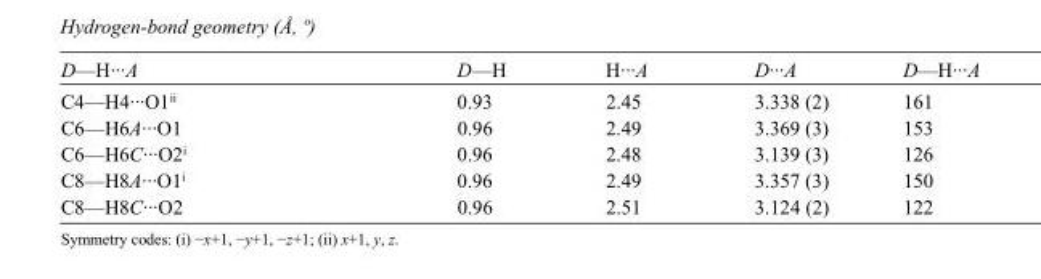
<table><tbody><tr><td>D—H···A</td><td>D—H</td><td>H···A</td><td>D···A</td><td>D—H···A</td></tr><tr><td>C4—H4···O1<sup>ii</sup></td><td>0.93</td><td>2.45</td><td>3.338 (2)</td><td>161</td></tr><tr><td>C6—H6A···O1</td><td>0.96</td><td>2.49</td><td>3.369 (3)</td><td>153</td></tr><tr><td>C6—H6C···O2<sup>i</sup></td><td>0.96</td><td>2.48</td><td>3.139 (3)</td><td>126</td></tr><tr><td>C8—H8A···O1<sup>i</sup></td><td>0.96</td><td>2.49</td><td>3.357 (3)</td><td>150</td></tr><tr><td>C8—H8C···O2</td><td>0.96</td><td>2.51</td><td>3.124 (2)</td><td>122</td></tr></tbody></table>